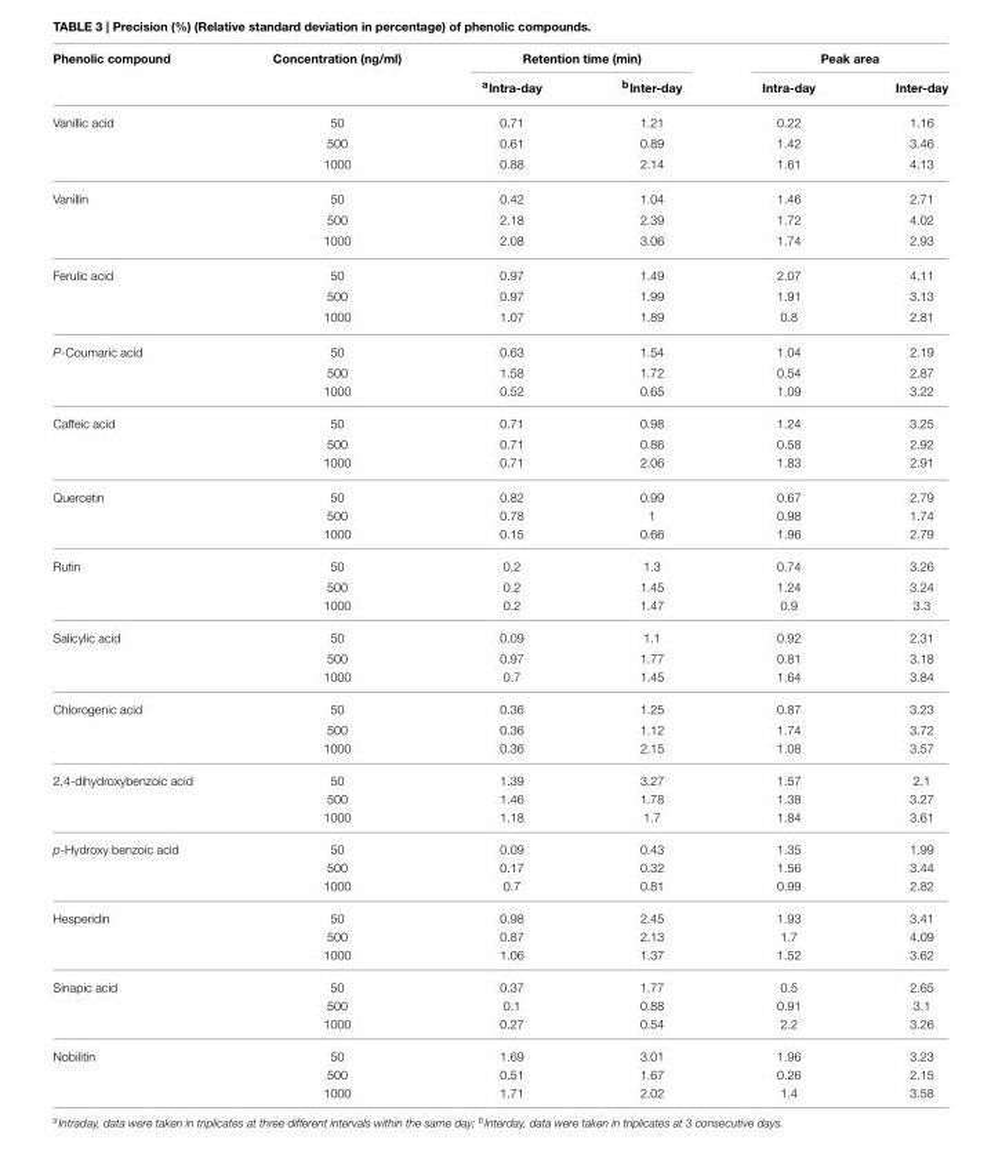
<table><thead><tr><td rowspan="2">Phenolic compound</td><td rowspan="2">Concentration (ng/ml)</td><td colspan="2">Retention time (min)</td><td colspan="2">Peak area</td></tr><tr><td><sup>a</sup>Intra-day</td><td><sup>b</sup>Inter-day</td><td>Intra-day</td><td>Inter-day</td></tr></thead><tbody><tr><td rowspan="3">Vanillic acid</td><td>50</td><td>0.71</td><td>1.21</td><td>0.22</td><td>1.16</td></tr><tr><td>500</td><td>0.61</td><td>0.89</td><td>1.42</td><td>3.46</td></tr><tr><td>1000</td><td>0.88</td><td>2.14</td><td>1.61</td><td>4.13</td></tr><tr><td rowspan="3">Vanillin</td><td>50</td><td>0.42</td><td>1.04</td><td>1.46</td><td>2.71</td></tr><tr><td>500</td><td>2.18</td><td>2.39</td><td>1.72</td><td>4.02</td></tr><tr><td>1000</td><td>2.08</td><td>3.06</td><td>1.74</td><td>2.93</td></tr><tr><td rowspan="3">Ferulic acid</td><td>50</td><td>0.97</td><td>1.49</td><td>2.07</td><td>4.11</td></tr><tr><td>500</td><td>0.97</td><td>1.99</td><td>1.91</td><td>3.13</td></tr><tr><td>1000</td><td>1.07</td><td>1.89</td><td>0.8</td><td>2.81</td></tr><tr><td rowspan="3">P-Coumaric acid</td><td>50</td><td>0.63</td><td>1.54</td><td>1.04</td><td>2.19</td></tr><tr><td>500</td><td>1.58</td><td>1.72</td><td>0.54</td><td>2.87</td></tr><tr><td>1000</td><td>0.52</td><td>0.65</td><td>1.09</td><td>3.22</td></tr><tr><td rowspan="3">Caffeic acid</td><td>50</td><td>0.71</td><td>0.98</td><td>1.24</td><td>3.25</td></tr><tr><td>500</td><td>0.71</td><td>0.86</td><td>0.58</td><td>2.92</td></tr><tr><td>1000</td><td>0.71</td><td>2.06</td><td>1.83</td><td>2.91</td></tr><tr><td rowspan="3">Quercetin</td><td>50</td><td>0.82</td><td>0.99</td><td>0.67</td><td>2.79</td></tr><tr><td>500</td><td>0.78</td><td>1</td><td>0.98</td><td>1.74</td></tr><tr><td>1000</td><td>0.15</td><td>0.66</td><td>1.96</td><td>2.79</td></tr><tr><td rowspan="3">Rutin</td><td>50</td><td>0.2</td><td>1.3</td><td>0.74</td><td>3.26</td></tr><tr><td>500</td><td>0.2</td><td>1.45</td><td>1.24</td><td>3.24</td></tr><tr><td>1000</td><td>0.2</td><td>1.47</td><td>0.9</td><td>3.3</td></tr><tr><td rowspan="3">Salicylic acid</td><td>50</td><td>0.09</td><td>1.1</td><td>0.92</td><td>2.31</td></tr><tr><td>500</td><td>0.97</td><td>1.77</td><td>0.81</td><td>3.18</td></tr><tr><td>1000</td><td>0.7</td><td>1.45</td><td>1.64</td><td>3.84</td></tr><tr><td rowspan="3">Chlorogenic acid</td><td>50</td><td>0.36</td><td>1.25</td><td>0.87</td><td>3.23</td></tr><tr><td>500</td><td>0.36</td><td>1.12</td><td>1.74</td><td>3.72</td></tr><tr><td>1000</td><td>0.36</td><td>2.15</td><td>1.08</td><td>3.57</td></tr><tr><td rowspan="3">2,4-dihydroxybenzoic acid</td><td>50</td><td>1.39</td><td>3.27</td><td>1.57</td><td>2.1</td></tr><tr><td>500</td><td>1.46</td><td>1.78</td><td>1.38</td><td>3.27</td></tr><tr><td>1000</td><td>1.18</td><td>1.7</td><td>1.84</td><td>3.61</td></tr><tr><td rowspan="3">p-Hydroxy benzoic acid</td><td>50</td><td>0.09</td><td>0.43</td><td>1.35</td><td>1.99</td></tr><tr><td>500</td><td>0.17</td><td>0.32</td><td>1.56</td><td>3.44</td></tr><tr><td>1000</td><td>0.7</td><td>0.81</td><td>0.99</td><td>2.82</td></tr><tr><td rowspan="3">Hesperidin</td><td>50</td><td>0.98</td><td>2.45</td><td>1.93</td><td>3.41</td></tr><tr><td>500</td><td>0.87</td><td>2.13</td><td>1.7</td><td>4.09</td></tr><tr><td>1000</td><td>1.06</td><td>1.37</td><td>1.52</td><td>3.62</td></tr><tr><td rowspan="3">Sinapic acid</td><td>50</td><td>0.37</td><td>1.77</td><td>0.5</td><td>2.65</td></tr><tr><td>500</td><td>0.1</td><td>0.88</td><td>0.91</td><td>3.1</td></tr><tr><td>1000</td><td>0.27</td><td>0.54</td><td>2.2</td><td>3.26</td></tr><tr><td rowspan="3">Nobilitin</td><td>50</td><td>1.69</td><td>3.01</td><td>1.96</td><td>3.23</td></tr><tr><td>500</td><td>0.51</td><td>1.67</td><td>0.26</td><td>2.15</td></tr><tr><td>1000</td><td>1.71</td><td>2.02</td><td>1.4</td><td>3.58</td></tr></tbody></table>